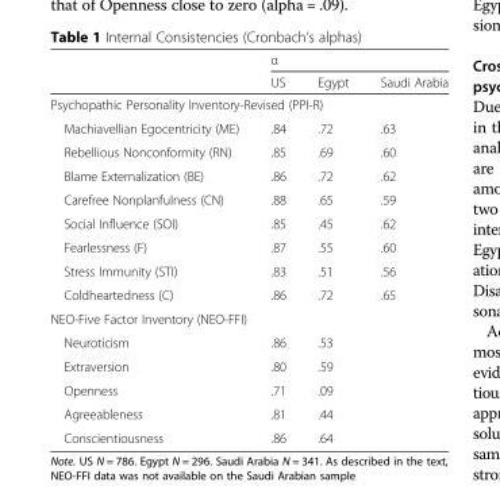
<table><thead><tr><td rowspan="2"></td><td colspan="3">α</td></tr><tr><td>US</td><td>Egypt</td><td>Saudi Arabia</td></tr></thead><tbody><tr><td colspan="4">Psychopathic Personality Inventory-Revised (PPI-R)</td></tr><tr><td>Machiavellian Egocentricity (ME)</td><td>.84</td><td>.72</td><td>.63</td></tr><tr><td>Rebellious Nonconformity (RN)</td><td>.85</td><td>.69</td><td>.60</td></tr><tr><td>Blame Externalization (BE)</td><td>.86</td><td>.72</td><td>.62</td></tr><tr><td>Carefree Nonplanfulness (CN)</td><td>.88</td><td>.65</td><td>.59</td></tr><tr><td>Social Influence (SOI)</td><td>.85</td><td>.45</td><td>.62</td></tr><tr><td>Fearlessness (F)</td><td>.87</td><td>.55</td><td>.60</td></tr><tr><td>Stress Immunity (STI)</td><td>.83</td><td>.51</td><td>.56</td></tr><tr><td>Coldheartedness (C)</td><td>.86</td><td>.72</td><td>.65</td></tr><tr><td colspan="4">NEO-Five Factor Inventory (NEO-FFI)</td></tr><tr><td>Neuroticism</td><td>.86</td><td>.53</td><td></td></tr><tr><td>Extraversion</td><td>.80</td><td>.59</td><td></td></tr><tr><td>Openness</td><td>.71</td><td>.09</td><td></td></tr><tr><td>Agreeableness</td><td>.81</td><td>.44</td><td></td></tr><tr><td>Conscientiousness</td><td>.86</td><td>.64</td><td></td></tr></tbody></table>